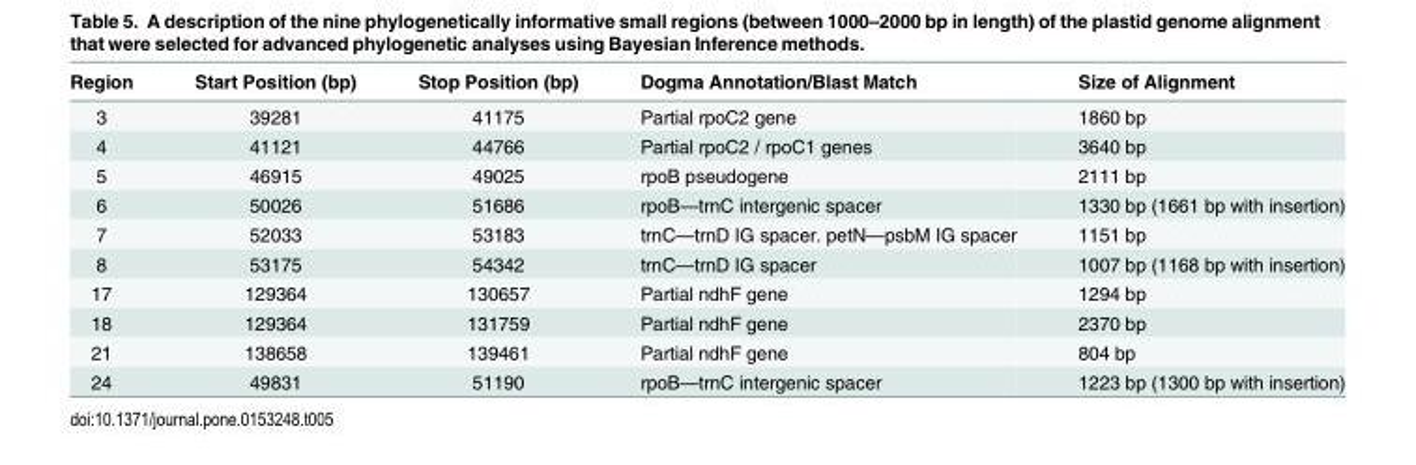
<table><thead><tr><td>Region</td><td>Start Position (bp)</td><td>Stop Position (bp)</td><td>Dogma Annotation/Blast Match</td><td>Size of Alignment</td></tr></thead><tbody><tr><td>3</td><td>39281</td><td>41175</td><td>Partial rpoC2 gene</td><td>1860 bp</td></tr><tr><td>4</td><td>41121</td><td>44766</td><td>Partial rpoC2 / rpoC1 genes</td><td>3640 bp</td></tr><tr><td>5</td><td>46915</td><td>49025</td><td>rpoB pseudogene</td><td>2111 bp</td></tr><tr><td>6</td><td>50026</td><td>51686</td><td>rpoB—trnC intergenic spacer</td><td>1330 bp (1661 bp with insertion)</td></tr><tr><td>7</td><td>52033</td><td>53183</td><td>trnC—trnD IG spacer. petN—psbM IG spacer</td><td>1151 bp</td></tr><tr><td>8</td><td>53175</td><td>54342</td><td>trnC—trnD IG spacer</td><td>1007 bp (1168 bp with insertion)</td></tr><tr><td>17</td><td>129364</td><td>130657</td><td>Partial ndhF gene</td><td>1294 bp</td></tr><tr><td>18</td><td>129364</td><td>131759</td><td>Partial ndhF gene</td><td>2370 bp</td></tr><tr><td>21</td><td>138658</td><td>139461</td><td>Partial ndhF gene</td><td>804 bp</td></tr><tr><td>24</td><td>49831</td><td>51190</td><td>rpoB—trnC intergenic spacer</td><td>1223 bp (1300 bp with insertion)</td></tr></tbody></table>